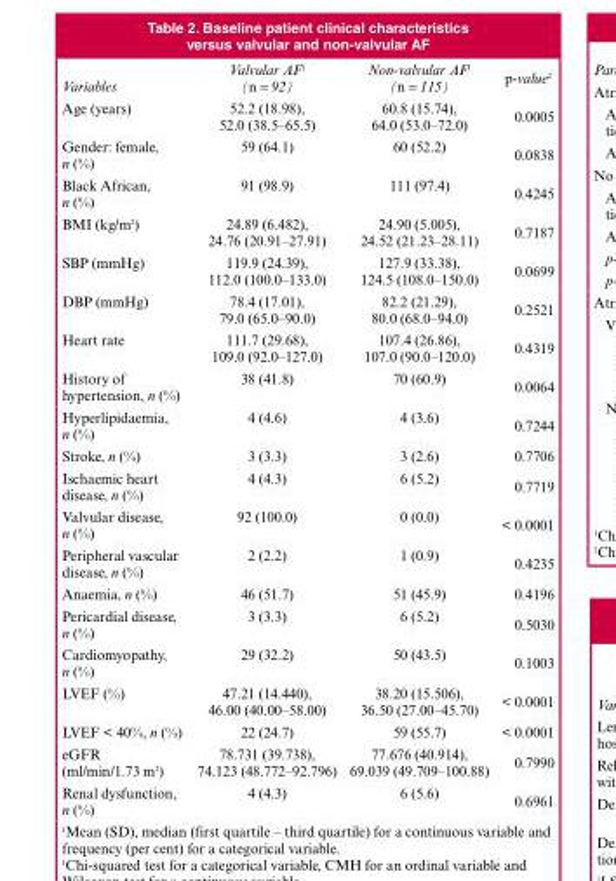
<table><thead><tr><td>Variables</td><td>Valvular AF<sup>1</sup> (n = 92)</td><td>Non-valvular AF1 (n = 115)</td><td>p-value<sup>2</sup></td></tr></thead><tbody><tr><td>Age (years)</td><td>52.2 (18.98), 52.0 (38.5–65.5)</td><td>60.8 (15.74), 64.0 (53.0–72.0)</td><td>0.0005</td></tr><tr><td>Gender: female, n (%)</td><td>59 (64.1)</td><td>60 (52.2)</td><td>0.0838</td></tr><tr><td>Black African, n (%)</td><td>91 (98.9)</td><td>111 (97.4)</td><td>0.4245</td></tr><tr><td>BMI (kg/m<sup>2</sup>)</td><td>24.89 (6.482), 24.76 (20.91–27.91)</td><td>24.90 (5.005), 24.52 (21.23–28.11)</td><td>0.7187</td></tr><tr><td>SBP (mmHg)</td><td>119.9 (24.39), 112.0 (100.0–133.0)</td><td>127.9 (33.38), 124.5 (108.0–150.0)</td><td>0.0699</td></tr><tr><td>DBP (mmHg)</td><td>78.4 (17.01), 79.0 (65.0–90.0)</td><td>82.2 (21.29), 80.0 (68.0–94.0)</td><td>0.2521</td></tr><tr><td>Heart rate</td><td>111.7 (29.68), 109.0 (92.0–127.0)</td><td>107.4 (26.86), 107.0 (90.0–120.0)</td><td>0.4319</td></tr><tr><td>History of hypertension, n (%)</td><td>38 (41.8)</td><td>70 (60.9)</td><td>0.0064</td></tr><tr><td>Hyperlipidaemia, n (%)</td><td>4 (4.6)</td><td>4 (3.6)</td><td>0.7244</td></tr><tr><td>Stroke, n (%)</td><td>3 (3.3)</td><td>3 (2.6)</td><td>0.7706</td></tr><tr><td>Ischaemic heart disease, n (%)</td><td>4 (4.3)</td><td>6 (5.2)</td><td>0.7719</td></tr><tr><td>Valvular disease, n (%)</td><td>92 (100.0)</td><td>0 (0.0)</td><td>&lt; 0.0001</td></tr><tr><td>Peripheral vascular disease, n (%)</td><td>2 (2.2)</td><td>1 (0.9)</td><td>0.4235</td></tr><tr><td>Anaemia, n (%)</td><td>46 (51.7)</td><td>51 (45.9)</td><td>0.4196</td></tr><tr><td>Pericardial disease, n (%)</td><td>3 (3.3)</td><td>6 (5.2)</td><td>0.5030</td></tr><tr><td>Cardiomyopathy, n (%)</td><td>29 (32.2)</td><td>50 (43.5)</td><td>0.1003</td></tr><tr><td>LVEF (%)</td><td>47.21 (14.440), 46.00 (40.00–58.00)</td><td>38.20 (15.506), 36.50 (27.00–45.70)</td><td>&lt; 0.0001</td></tr><tr><td>LVEF &lt; 40%, n (%)</td><td>22 (24.7)</td><td>59 (55.7)</td><td>&lt; 0.0001</td></tr><tr><td>eGFR (ml/min/1.73 m<sup>2</sup>)</td><td>78.731 (39.738), 74.123 (48.772–92.796)</td><td>77.676 (40.914), 69.039 (49.709–100.88)</td><td>0.7990</td></tr><tr><td>Renal dysfunction, n (%)</td><td>4 (4.3)</td><td>6 (5.6)</td><td>0.6961</td></tr></tbody></table>